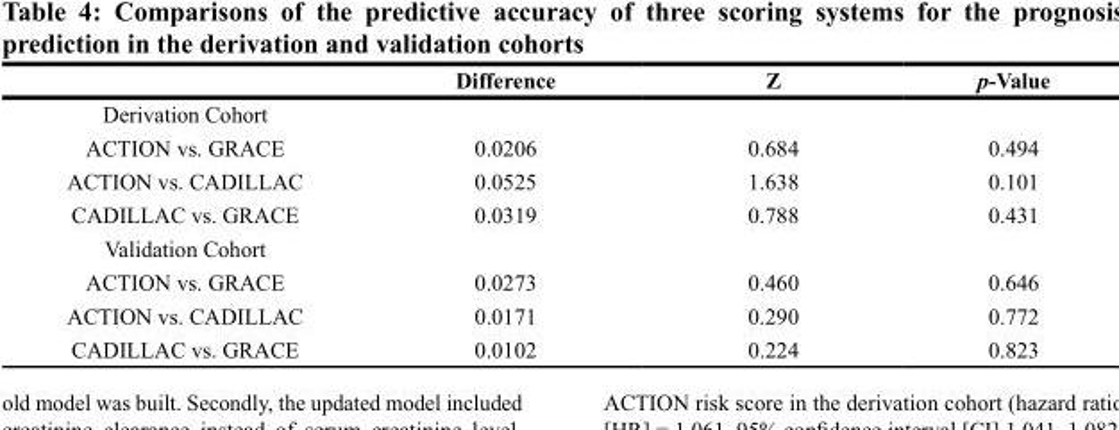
<table><thead><tr><td></td><td>Difference</td><td>Z</td><td>p-Value</td></tr></thead><tbody><tr><td colspan="4">Derivation Cohort</td></tr><tr><td>ACTION vs. GRACE</td><td>0.0206</td><td>0.684</td><td>0.494</td></tr><tr><td>ACTION vs. CADILLAC</td><td>0.0525</td><td>1.638</td><td>0.101</td></tr><tr><td>CADILLAC vs. GRACE</td><td>0.0319</td><td>0.788</td><td>0.431</td></tr><tr><td colspan="4">Validation Cohort</td></tr><tr><td>ACTION vs. GRACE</td><td>0.0273</td><td>0.460</td><td>0.646</td></tr><tr><td>ACTION vs. CADILLAC</td><td>0.0171</td><td>0.290</td><td>0.772</td></tr><tr><td>CADILLAC vs. GRACE</td><td>0.0102</td><td>0.224</td><td>0.823</td></tr></tbody></table>